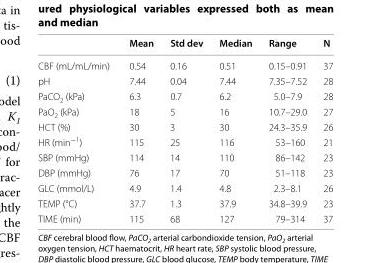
<table><thead><tr><td></td><td>Mean</td><td>Std dev</td><td>Median</td><td>Range</td><td>N</td></tr></thead><tbody><tr><td>CBF (mL/mL/min)</td><td>0.54</td><td>0.16</td><td>0.51</td><td>0.15–0.91</td><td>37</td></tr><tr><td>pH</td><td>7.44</td><td>0.04</td><td>7.44</td><td>7.35–7.52</td><td>28</td></tr><tr><td>PaCO<sub>2</sub> (kPa)</td><td>6.3</td><td>0.7</td><td>6.2</td><td>5.0–7.9</td><td>28</td></tr><tr><td>PaO<sub>2</sub> (kPa)</td><td>18</td><td>5</td><td>16</td><td>10.7–29.0</td><td>27</td></tr><tr><td>HCT (%)</td><td>30</td><td>3</td><td>30</td><td>24.3–35.9</td><td>26</td></tr><tr><td>HR (min<sup>−1</sup>)</td><td>115</td><td>25</td><td>116</td><td>53–160</td><td>21</td></tr><tr><td>SBP (mmHg)</td><td>114</td><td>14</td><td>110</td><td>86–142</td><td>23</td></tr><tr><td>DBP (mmHg)</td><td>76</td><td>17</td><td>70</td><td>51–118</td><td>23</td></tr><tr><td>GLC (mmol/L)</td><td>4.9</td><td>1.4</td><td>4.8</td><td>2.3–8.1</td><td>26</td></tr><tr><td>TEMP (°C)</td><td>37.7</td><td>1.3</td><td>37.9</td><td>34.8–39.9</td><td>23</td></tr><tr><td>TIME (min)</td><td>115</td><td>68</td><td>127</td><td>79–314</td><td>37</td></tr></tbody></table>